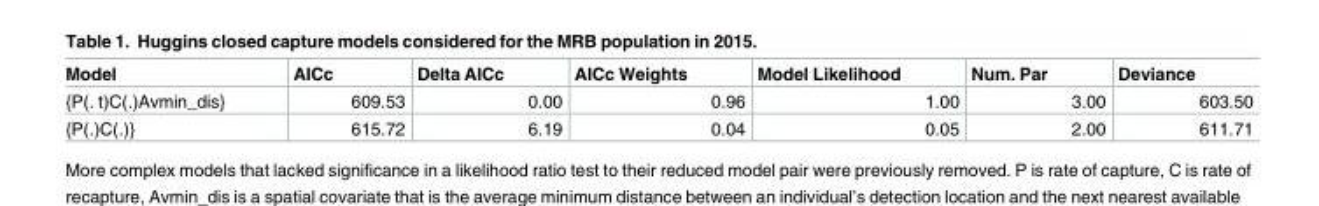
<table><thead><tr><td>Model</td><td>AICc</td><td>Delta AICc</td><td>AICc Weights</td><td>Model Likelihood</td><td>Num. Par</td><td>Deviance</td></tr></thead><tbody><tr><td>{P(. t)C(.)Avmin_dis}</td><td>609.53</td><td>0.00</td><td>0.96</td><td>1.00</td><td>3.00</td><td>603.50</td></tr><tr><td>{P(.)C(.)}</td><td>615.72</td><td>6.19</td><td>0.04</td><td>0.05</td><td>2.00</td><td>611.71</td></tr></tbody></table>